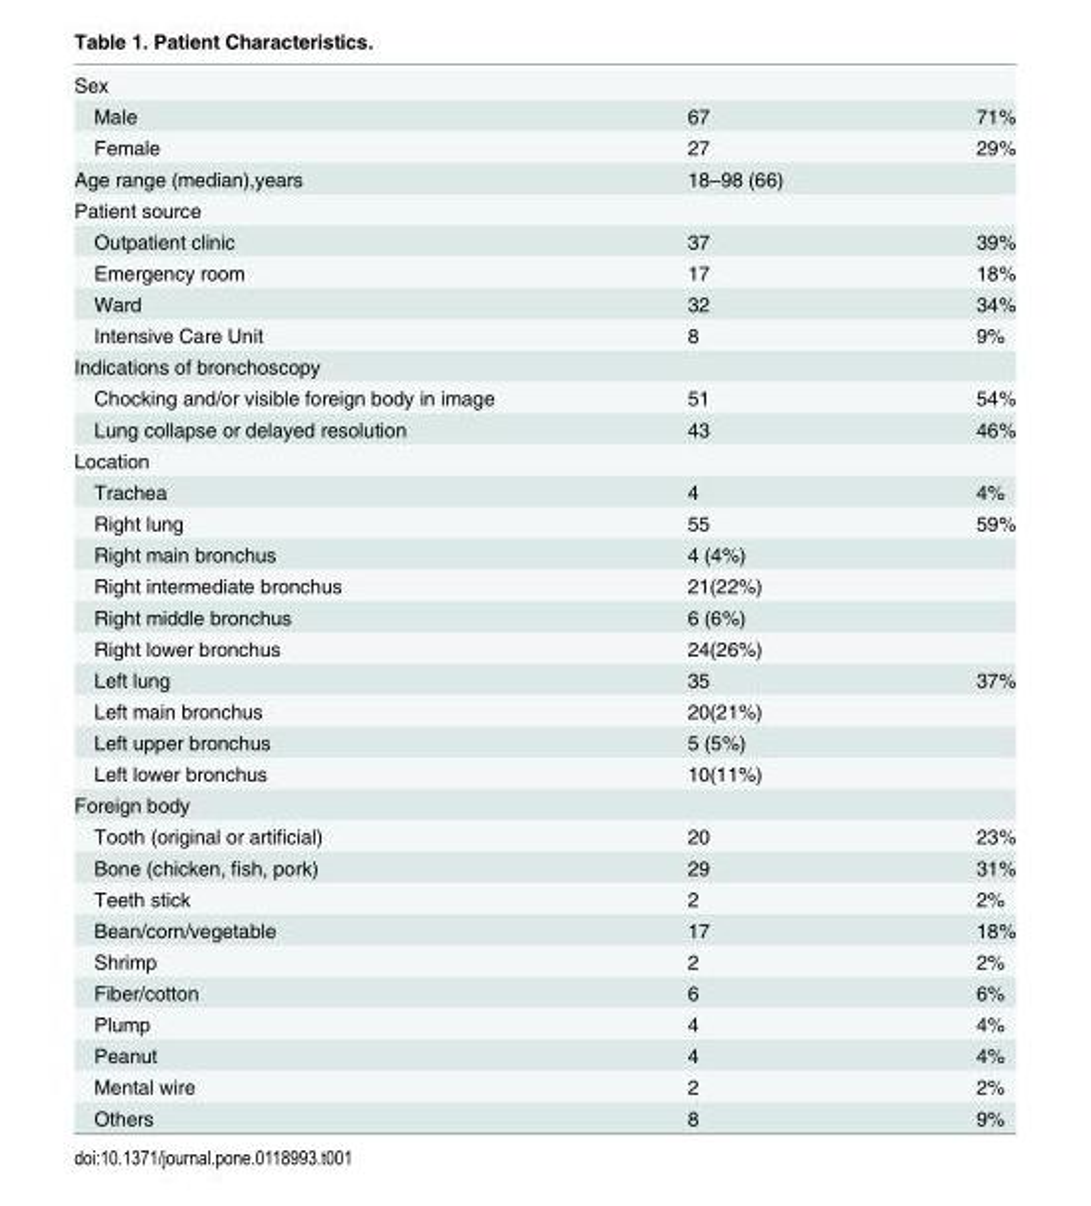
<table><tbody><tr><td colspan="3">Sex</td></tr><tr><td>Male</td><td>67</td><td>71%</td></tr><tr><td>Female</td><td>27</td><td>29%</td></tr><tr><td>Age range (median),years</td><td>18–98 (66)</td><td></td></tr><tr><td colspan="3">Patient source</td></tr><tr><td>Outpatient clinic</td><td>37</td><td>39%</td></tr><tr><td>Emergency room</td><td>17</td><td>18%</td></tr><tr><td>Ward</td><td>32</td><td>34%</td></tr><tr><td>Intensive Care Unit</td><td>8</td><td>9%</td></tr><tr><td colspan="3">Indications of bronchoscopy</td></tr><tr><td>Chocking and/or visible foreign body in image</td><td>51</td><td>54%</td></tr><tr><td>Lung collapse or delayed resolution</td><td>43</td><td>46%</td></tr><tr><td colspan="3">Location</td></tr><tr><td>Trachea</td><td>4</td><td>4%</td></tr><tr><td>Right lung</td><td>55</td><td>59%</td></tr><tr><td>Right main bronchus</td><td>4 (4%)</td><td></td></tr><tr><td>Right intermediate bronchus</td><td>21(22%)</td><td></td></tr><tr><td>Right middle bronchus</td><td>6 (6%)</td><td></td></tr><tr><td>Right lower bronchus</td><td>24(26%)</td><td></td></tr><tr><td>Left lung</td><td>35</td><td>37%</td></tr><tr><td>Left main bronchus</td><td>20(21%)</td><td></td></tr><tr><td>Left upper bronchus</td><td>5 (5%)</td><td></td></tr><tr><td>Left lower bronchus</td><td>10(11%)</td><td></td></tr><tr><td colspan="3">Foreign body</td></tr><tr><td>Tooth (original or artificial)</td><td>20</td><td>23%</td></tr><tr><td>Bone (chicken, fish, pork)</td><td>29</td><td>31%</td></tr><tr><td>Teeth stick</td><td>2</td><td>2%</td></tr><tr><td>Bean/corn/vegetable</td><td>17</td><td>18%</td></tr><tr><td>Shrimp</td><td>2</td><td>2%</td></tr><tr><td>Fiber/cotton</td><td>6</td><td>6%</td></tr><tr><td>Plump</td><td>4</td><td>4%</td></tr><tr><td>Peanut</td><td>4</td><td>4%</td></tr><tr><td>Mental wire</td><td>2</td><td>2%</td></tr><tr><td>Others</td><td>8</td><td>9%</td></tr></tbody></table>